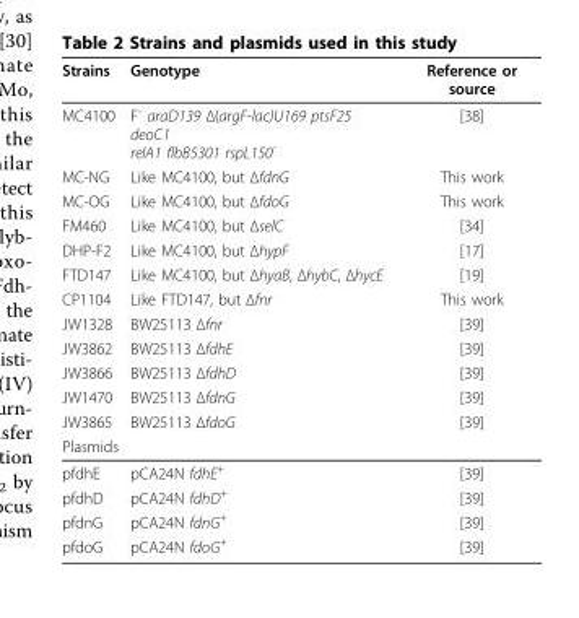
<table><thead><tr><td>Strains</td><td>Genotype</td><td>Reference or source</td></tr></thead><tbody><tr><td>MC4100</td><td>F<sup>-</sup> araD139 Δ(argF-lac)U169 ptsF25 deoC1 relA1 flbB5301 rspL150<sup>-</sup></td><td>[38]</td></tr><tr><td>MC-NG</td><td>Like MC4100, but ΔfdnG</td><td>This work</td></tr><tr><td>MC-OG</td><td>Like MC4100, but ΔfdoG</td><td>This work</td></tr><tr><td>FM460</td><td>Like MC4100, but ΔselC</td><td>[34]</td></tr><tr><td>DHP-F2</td><td>Like MC4100, but ΔhypF</td><td>[17]</td></tr><tr><td>FTD147</td><td>Like MC4100, but ΔhyaB, ΔhybC, ΔhycE</td><td>[19]</td></tr><tr><td>CP1104</td><td>Like FTD147, but Δfnr</td><td>This work</td></tr><tr><td>JW1328</td><td>BW25113 Δfnr</td><td>[39]</td></tr><tr><td>JW3862</td><td>BW25113 ΔfdhE</td><td>[39]</td></tr><tr><td>JW3866</td><td>BW25113 ΔfdhD</td><td>[39]</td></tr><tr><td>JW1470</td><td>BW25113 ΔfdnG</td><td>[39]</td></tr><tr><td>JW3865</td><td>BW25113 ΔfdoG</td><td>[39]</td></tr><tr><td colspan="3">Plasmids</td></tr><tr><td>pfdhE</td><td>pCA24N fdhE<sup>+</sup></td><td>[39]</td></tr><tr><td>pfdhD</td><td>pCA24N fdhD<sup>+</sup></td><td>[39]</td></tr><tr><td>pfdnG</td><td>pCA24N fdnG<sup>+</sup></td><td>[39]</td></tr><tr><td>pfdoG</td><td>pCA24N fdoG<sup>+</sup></td><td>[39]</td></tr></tbody></table>